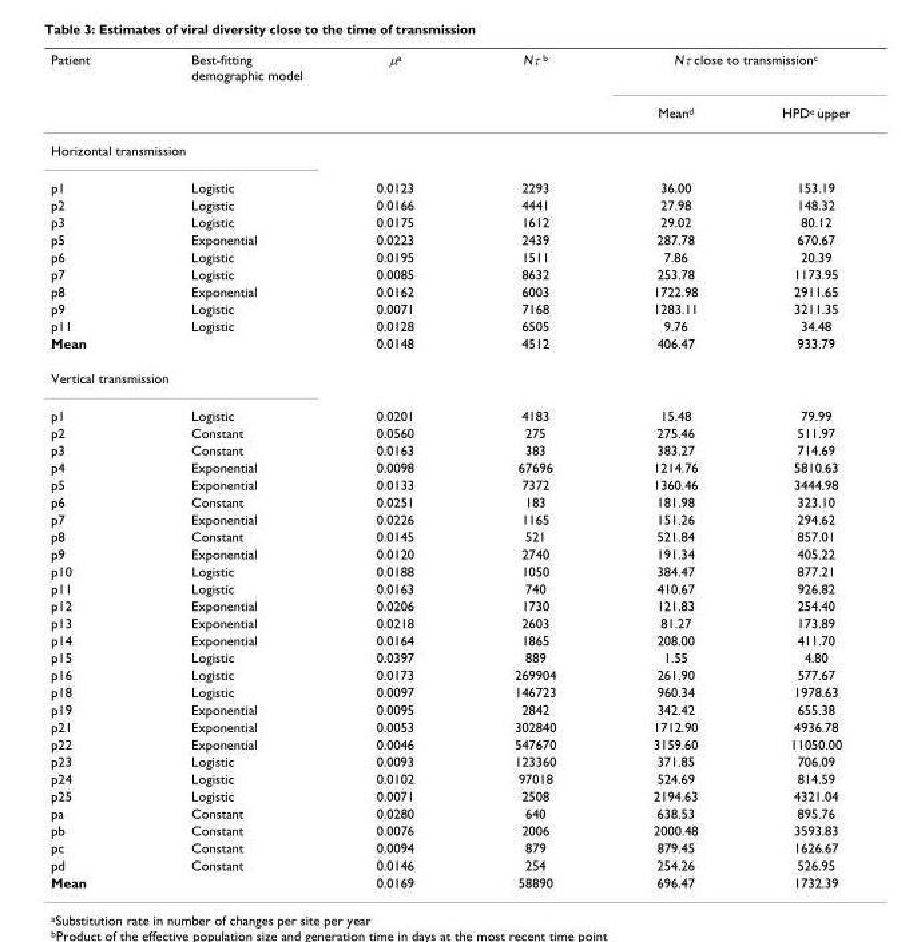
<table><thead><tr><td rowspan="2">Patient</td><td rowspan="2">Best-fitting demographic model</td><td rowspan="2">µ<sup>a</sup></td><td rowspan="2">Nτ <sup>b</sup></td><td colspan="2">Nτ close to transmission<sup>c</sup></td></tr><tr><td>Mean<sup>d</sup></td><td>HPD<sup>e</sup> upper</td></tr></thead><tbody><tr><td colspan="6">Horizontal transmission</td></tr><tr><td>p1</td><td>Logistic</td><td>0.0123</td><td>2293</td><td>36.00</td><td>153.19</td></tr><tr><td>p2</td><td>Logistic</td><td>0.0166</td><td>4441</td><td>27.98</td><td>148.32</td></tr><tr><td>p3</td><td>Logistic</td><td>0.0175</td><td>1612</td><td>29.02</td><td>80.12</td></tr><tr><td>p5</td><td>Exponential</td><td>0.0223</td><td>2439</td><td>287.78</td><td>670.67</td></tr><tr><td>p6</td><td>Logistic</td><td>0.0195</td><td>1511</td><td>7.86</td><td>20.39</td></tr><tr><td>p7</td><td>Logistic</td><td>0.0085</td><td>8632</td><td>253.78</td><td>1173.95</td></tr><tr><td>p8</td><td>Exponential</td><td>0.0162</td><td>6003</td><td>1722.98</td><td>2911.65</td></tr><tr><td>p9</td><td>Logistic</td><td>0.0071</td><td>7168</td><td>1283.11</td><td>3211.35</td></tr><tr><td>p11</td><td>Logistic</td><td>0.0128</td><td>6505</td><td>9.76</td><td>34.48</td></tr><tr><td>Mean</td><td></td><td>0.0148</td><td>4512</td><td>406.47</td><td>933.79</td></tr><tr><td colspan="6">Vertical transmission</td></tr><tr><td>p1</td><td>Logistic</td><td>0.0201</td><td>4183</td><td>15.48</td><td>79.99</td></tr><tr><td>p2</td><td>Constant</td><td>0.0560</td><td>275</td><td>275.46</td><td>511.97</td></tr><tr><td>p3</td><td>Constant</td><td>0.0163</td><td>383</td><td>383.27</td><td>714.69</td></tr><tr><td>p4</td><td>Exponential</td><td>0.0098</td><td>67696</td><td>1214.76</td><td>5810.63</td></tr><tr><td>p5</td><td>Exponential</td><td>0.0133</td><td>7372</td><td>1360.46</td><td>3444.98</td></tr><tr><td>p6</td><td>Constant</td><td>0.0251</td><td>183</td><td>181.98</td><td>323.10</td></tr><tr><td>p7</td><td>Exponential</td><td>0.0226</td><td>1165</td><td>151.26</td><td>294.62</td></tr><tr><td>p8</td><td>Constant</td><td>0.0145</td><td>521</td><td>521.84</td><td>857.01</td></tr><tr><td>p9</td><td>Exponential</td><td>0.0120</td><td>2740</td><td>191.34</td><td>405.22</td></tr><tr><td>p10</td><td>Logistic</td><td>0.0188</td><td>1050</td><td>384.47</td><td>877.21</td></tr><tr><td>p11</td><td>Logistic</td><td>0.0163</td><td>740</td><td>410.67</td><td>926.82</td></tr><tr><td>p12</td><td>Exponential</td><td>0.0206</td><td>1730</td><td>121.83</td><td>254.40</td></tr><tr><td>p13</td><td>Exponential</td><td>0.0218</td><td>2603</td><td>81.27</td><td>173.89</td></tr><tr><td>p14</td><td>Exponential</td><td>0.0164</td><td>1865</td><td>208.00</td><td>411.70</td></tr><tr><td>p15</td><td>Logistic</td><td>0.0397</td><td>889</td><td>1.55</td><td>4.80</td></tr><tr><td>p16</td><td>Logistic</td><td>0.0173</td><td>269904</td><td>261.90</td><td>577.67</td></tr><tr><td>p18</td><td>Logistic</td><td>0.0097</td><td>146723</td><td>960.34</td><td>1978.63</td></tr><tr><td>p19</td><td>Exponential</td><td>0.0095</td><td>2842</td><td>342.42</td><td>655.38</td></tr><tr><td>p21</td><td>Exponential</td><td>0.0053</td><td>302840</td><td>1712.90</td><td>4936.78</td></tr><tr><td>p22</td><td>Exponential</td><td>0.0046</td><td>547670</td><td>3159.60</td><td>11050.00</td></tr><tr><td>p23</td><td>Logistic</td><td>0.0093</td><td>123360</td><td>371.85</td><td>706.09</td></tr><tr><td>p24</td><td>Logistic</td><td>0.0102</td><td>97018</td><td>524.69</td><td>814.59</td></tr><tr><td>p25</td><td>Logistic</td><td>0.0071</td><td>2508</td><td>2194.63</td><td>4321.04</td></tr><tr><td>pa</td><td>Constant</td><td>0.0280</td><td>640</td><td>638.53</td><td>895.76</td></tr><tr><td>pb</td><td>Constant</td><td>0.0076</td><td>2006</td><td>2000.48</td><td>3593.83</td></tr><tr><td>pc</td><td>Constant</td><td>0.0094</td><td>879</td><td>879.45</td><td>1626.67</td></tr><tr><td>pd</td><td>Constant</td><td>0.0146</td><td>254</td><td>254.26</td><td>526.95</td></tr><tr><td>Mean</td><td></td><td>0.0169</td><td>58890</td><td>696.47</td><td>1732.39</td></tr></tbody></table>